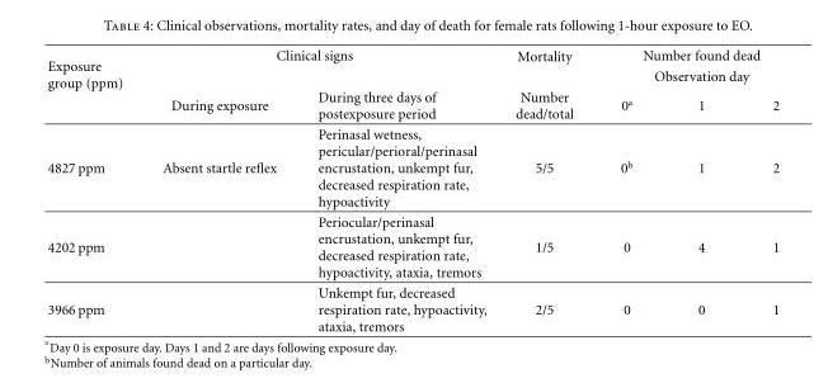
<table><thead><tr><td rowspan="2">Exposure group (ppm)</td><td colspan="2">Clinical signs</td><td rowspan="2">Mortality Number dead/total</td><td colspan="3">Number found dead Observation day</td></tr><tr><td>During exposure</td><td>During three days of postexposure period</td><td>0<sup>a</sup></td><td>1</td><td>2</td></tr></thead><tbody><tr><td>4827 ppm</td><td>Absent startle reflex</td><td>Perinasal wetness, pericular/perioral/perinasal encrustation, unkempt fur, decreased respiration rate, hypoactivity</td><td>5/5</td><td>0<sup>b</sup></td><td>1</td><td>2</td></tr><tr><td>4202 ppm</td><td></td><td>Periocular/perinasal encrustation, unkempt fur, decreased respiration rate, hypoactivity, ataxia, tremors</td><td>1/5</td><td>0</td><td>4</td><td>1</td></tr><tr><td>3966 ppm</td><td></td><td>Unkempt fur, decreased respiration rate, hypoactivity, ataxia, tremors</td><td>2/5</td><td>0</td><td>0</td><td>1</td></tr></tbody></table>